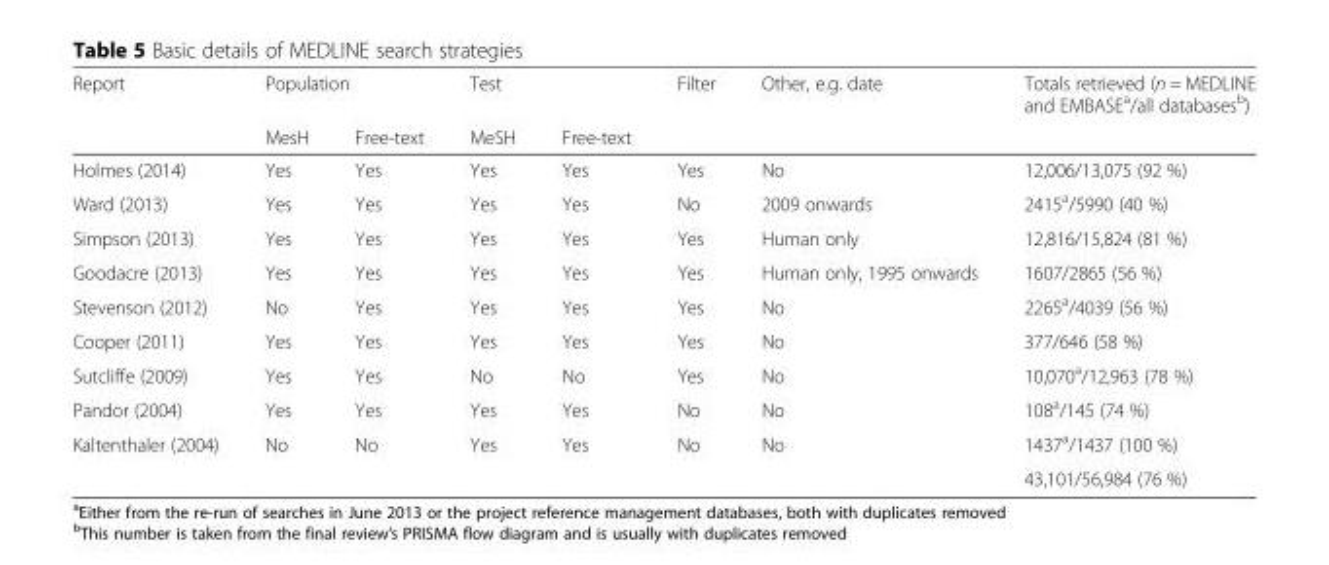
<table><thead><tr><td rowspan="2">Report</td><td colspan="2">Population</td><td colspan="2">Test</td><td rowspan="2">Filter</td><td rowspan="2">Other, e.g. date</td><td rowspan="2">Totals retrieved (n = MEDLINE and EMBASE<sup>a</sup>/all databases<sup>b</sup>)</td></tr><tr><td>MesH</td><td>Free-text</td><td>MeSH</td><td>Free-text</td></tr></thead><tbody><tr><td>Holmes (2014)</td><td>Yes</td><td>Yes</td><td>Yes</td><td>Yes</td><td>Yes</td><td>No</td><td>12,006/13,075 (92 %)</td></tr><tr><td>Ward (2013)</td><td>Yes</td><td>Yes</td><td>Yes</td><td>Yes</td><td>No</td><td>2009 onwards</td><td>2415<sup>a</sup>/5990 (40 %)</td></tr><tr><td>Simpson (2013)</td><td>Yes</td><td>Yes</td><td>Yes</td><td>Yes</td><td>Yes</td><td>Human only</td><td>12,816/15,824 (81 %)</td></tr><tr><td>Goodacre (2013)</td><td>Yes</td><td>Yes</td><td>Yes</td><td>Yes</td><td>Yes</td><td>Human only, 1995 onwards</td><td>1607/2865 (56 %)</td></tr><tr><td>Stevenson (2012)</td><td>No</td><td>Yes</td><td>Yes</td><td>Yes</td><td>Yes</td><td>No</td><td>2265<sup>a</sup>/4039 (56 %)</td></tr><tr><td>Cooper (2011)</td><td>Yes</td><td>Yes</td><td>Yes</td><td>Yes</td><td>Yes</td><td>No</td><td>377/646 (58 %)</td></tr><tr><td>Sutcliffe (2009)</td><td>Yes</td><td>Yes</td><td>No</td><td>No</td><td>Yes</td><td>No</td><td>10,070<sup>a</sup>/12,963 (78 %)</td></tr><tr><td>Pandor (2004)</td><td>Yes</td><td>Yes</td><td>Yes</td><td>Yes</td><td>No</td><td>No</td><td>108<sup>a</sup>/145 (74 %)</td></tr><tr><td>Kaltenthaler (2004)</td><td>No</td><td>No</td><td>Yes</td><td>Yes</td><td>No</td><td>No</td><td>1437<sup>a</sup>/1437 (100 %)</td></tr><tr><td colspan="7"></td><td>43,101/56,984 (76 %)</td></tr></tbody></table>